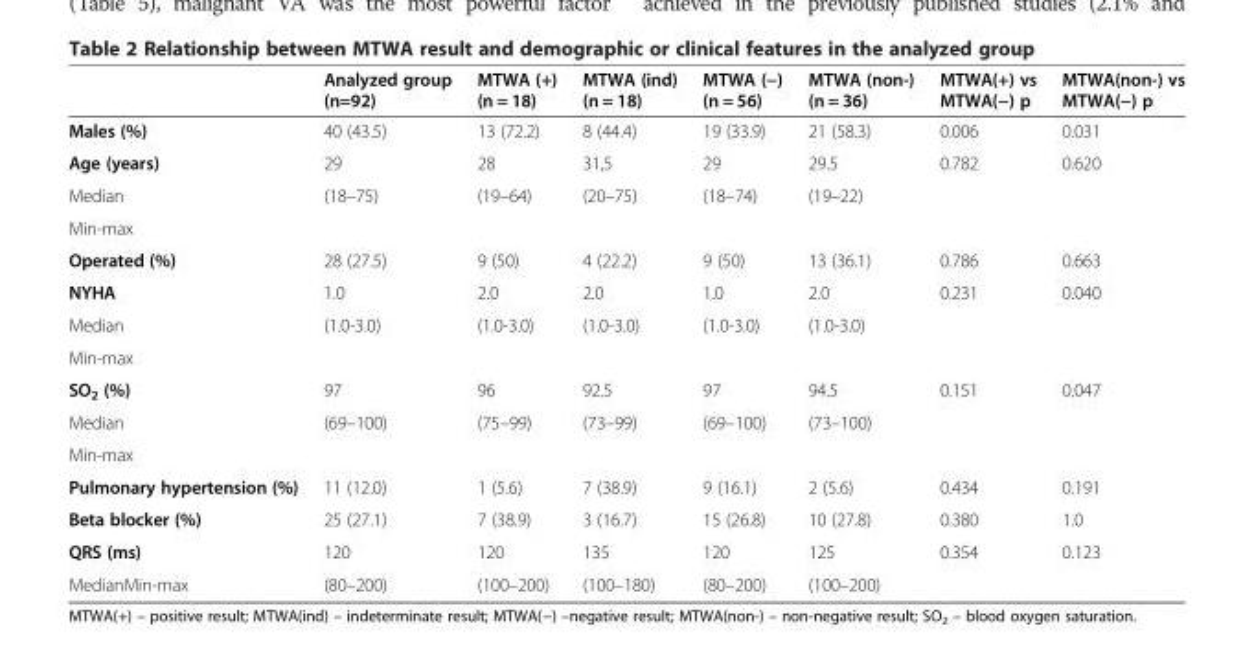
<table><thead><tr><td></td><td>Analyzed group (n=92)</td><td>MTWA (+) (n = 18)</td><td>MTWA (ind) (n = 18)</td><td>MTWA (−) (n = 56)</td><td>MTWA (non-) (n = 36)</td><td>MTWA(+) vs MTWA(−) p</td><td>MTWA(non-) vs MTWA(−) p</td></tr></thead><tbody><tr><td>Males (%)</td><td>40 (43.5)</td><td>13 (72.2)</td><td>8 (44.4)</td><td>19 (33.9)</td><td>21 (58.3)</td><td>0.006</td><td>0.031</td></tr><tr><td>Age (years)</td><td>29</td><td>28</td><td>31,5</td><td>29</td><td>29.5</td><td>0.782</td><td>0.620</td></tr><tr><td>Median</td><td>(18–75)</td><td>(19–64)</td><td>(20–75)</td><td>(18–74)</td><td>(19–22)</td><td></td><td></td></tr><tr><td colspan="8">Min-max</td></tr><tr><td>Operated (%)</td><td>28 (27.5)</td><td>9 (50)</td><td>4 (22.2)</td><td>9 (50)</td><td>13 (36.1)</td><td>0.786</td><td>0.663</td></tr><tr><td>NYHA</td><td>1.0</td><td>2.0</td><td>2.0</td><td>1.0</td><td>2.0</td><td>0.231</td><td>0.040</td></tr><tr><td>Median</td><td>(1.0-3.0)</td><td>(1.0-3.0)</td><td>(1.0-3.0)</td><td>(1.0-3.0)</td><td>(1.0-3.0)</td><td></td><td></td></tr><tr><td colspan="8">Min-max</td></tr><tr><td>SO<sub>2</sub> (%)</td><td>97</td><td>96</td><td>92.5</td><td>97</td><td>94.5</td><td>0.151</td><td>0.047</td></tr><tr><td>Median</td><td>(69–100)</td><td>(75–99)</td><td>(73–99)</td><td>(69–100)</td><td>(73–100)</td><td></td><td></td></tr><tr><td colspan="8">Min-max</td></tr><tr><td>Pulmonary hypertension (%)</td><td>11 (12.0)</td><td>1 (5.6)</td><td>7 (38.9)</td><td>9 (16.1)</td><td>2 (5.6)</td><td>0.434</td><td>0.191</td></tr><tr><td>Beta blocker (%)</td><td>25 (27.1)</td><td>7 (38.9)</td><td>3 (16.7)</td><td>15 (26.8)</td><td>10 (27.8)</td><td>0.380</td><td>1.0</td></tr><tr><td>QRS (ms)</td><td>120</td><td>120</td><td>135</td><td>120</td><td>125</td><td>0.354</td><td>0.123</td></tr><tr><td>MedianMin-max</td><td>(80–200)</td><td>(100–200)</td><td>(100–180)</td><td>(80–200)</td><td>(100–200)</td><td></td><td></td></tr></tbody></table>